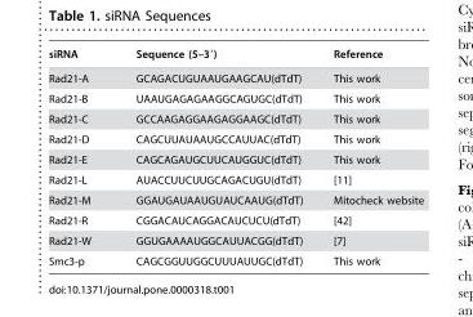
<table><thead><tr><td>siRNA</td><td>Sequence (5–3′)</td><td>Reference</td></tr></thead><tbody><tr><td>Rad21-A</td><td>GCAGACUGUAAUGAAGCAU(dTdT)</td><td>This work</td></tr><tr><td>Rad21-B</td><td>UAAUGAGAGAAGGCAGUGC(dTdT)</td><td>This work</td></tr><tr><td>Rad21-C</td><td>GCCAAGAGGAAGAGGAAGC(dTdT)</td><td>This work</td></tr><tr><td>Rad21-D</td><td>CAGCUUAUAAUGCCAUUAC(dTdT)</td><td>This work</td></tr><tr><td>Rad21-E</td><td>CAGCAGAUGCUUCAUGGUC(dTdT)</td><td>This work</td></tr><tr><td>Rad21-L</td><td>AUACCUUCUUGCAGACUGU(dTdT)</td><td>[11]</td></tr><tr><td>Rad21-M</td><td>GGAUGAUAAUGUAUCAAUG(dTdT)</td><td>Mitocheck website</td></tr><tr><td>Rad21-R</td><td>CGGACAUCAGGACAUCUCU(dTdT)</td><td>[42]</td></tr><tr><td>Rad21-W</td><td>GGUGAAAAUGGCAUUACGG(dTdT)</td><td>[7]</td></tr><tr><td>Smc3-p</td><td>CAGCGGUUGGCUUUAUUGC(dTdT)</td><td>This work</td></tr></tbody></table>